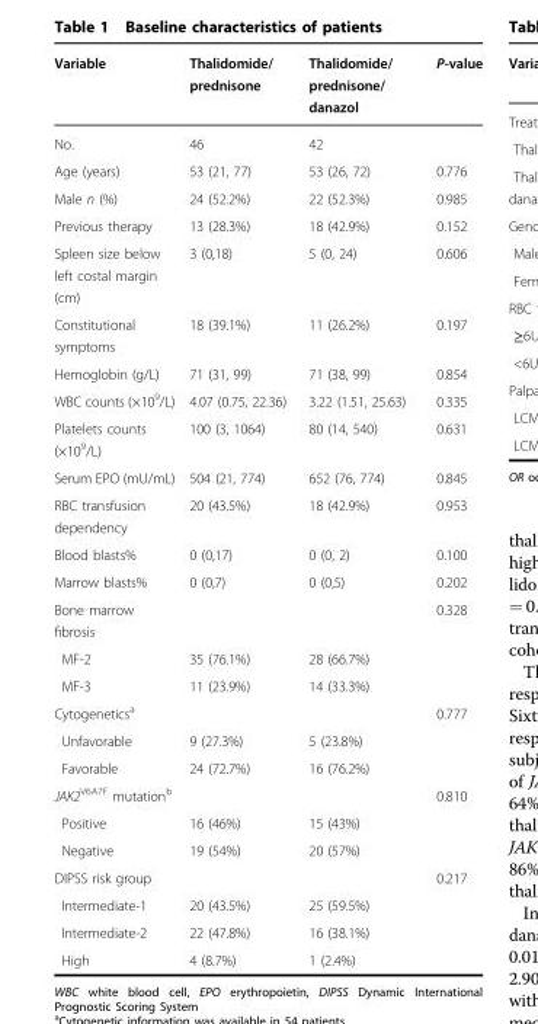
<table><thead><tr><td>Variable</td><td>Thalidomide/ prednisone</td><td>Thalidomide/ prednisone/ danazol</td><td>P-value</td></tr></thead><tbody><tr><td>No.</td><td>46</td><td>42</td><td></td></tr><tr><td>Age (years)</td><td>53 (21, 77)</td><td>53 (26, 72)</td><td>0.776</td></tr><tr><td>Male n (%)</td><td>24 (52.2%)</td><td>22 (52.3%)</td><td>0.985</td></tr><tr><td>Previous therapy</td><td>13 (28.3%)</td><td>18 (42.9%)</td><td>0.152</td></tr><tr><td>Spleen size below left costal margin (cm)</td><td>3 (0,18)</td><td>5 (0, 24)</td><td>0.606</td></tr><tr><td>Constitutional symptoms</td><td>18 (39.1%)</td><td>11 (26.2%)</td><td>0.197</td></tr><tr><td>Hemoglobin (g/L)</td><td>71 (31, 99)</td><td>71 (38, 99)</td><td>0.854</td></tr><tr><td>WBC counts (×10<sup>9</sup>/L)</td><td>4.07 (0.75, 22.36)</td><td>3.22 (1.51, 25.63)</td><td>0.335</td></tr><tr><td>Platelets counts (×10<sup>9</sup>/L)</td><td>100 (3, 1064)</td><td>80 (14, 540)</td><td>0.631</td></tr><tr><td>Serum EPO (mU/mL)</td><td>504 (21, 774)</td><td>652 (76, 774)</td><td>0.845</td></tr><tr><td>RBC transfusion dependency</td><td>20 (43.5%)</td><td>18 (42.9%)</td><td>0.953</td></tr><tr><td>Blood blasts%</td><td>0 (0,17)</td><td>0 (0, 2)</td><td>0.100</td></tr><tr><td>Marrow blasts%</td><td>0 (0,7)</td><td>0 (0,5)</td><td>0.202</td></tr><tr><td>Bone marrow fibrosis</td><td></td><td></td><td>0.328</td></tr><tr><td>MF-2</td><td>35 (76.1%)</td><td>28 (66.7%)</td><td></td></tr><tr><td>MF-3</td><td>11 (23.9%)</td><td>14 (33.3%)</td><td></td></tr><tr><td>Cytogenetics<sup>a</sup></td><td></td><td></td><td>0.777</td></tr><tr><td>Unfavorable</td><td>9 (27.3%)</td><td>5 (23.8%)</td><td></td></tr><tr><td>Favorable</td><td>24 (72.7%)</td><td>16 (76.2%)</td><td></td></tr><tr><td>JAK2<sup>V6A7F</sup> mutation<sup>b</sup></td><td></td><td></td><td>0.810</td></tr><tr><td>Positive</td><td>16 (46%)</td><td>15 (43%)</td><td></td></tr><tr><td>Negative</td><td>19 (54%)</td><td>20 (57%)</td><td></td></tr><tr><td>DIPSS risk group</td><td></td><td></td><td>0.217</td></tr><tr><td>Intermediate-1</td><td>20 (43.5%)</td><td>25 (59.5%)</td><td></td></tr><tr><td>Intermediate-2</td><td>22 (47.8%)</td><td>16 (38.1%)</td><td></td></tr><tr><td>High</td><td>4 (8.7%)</td><td>1 (2.4%)</td><td></td></tr></tbody></table>